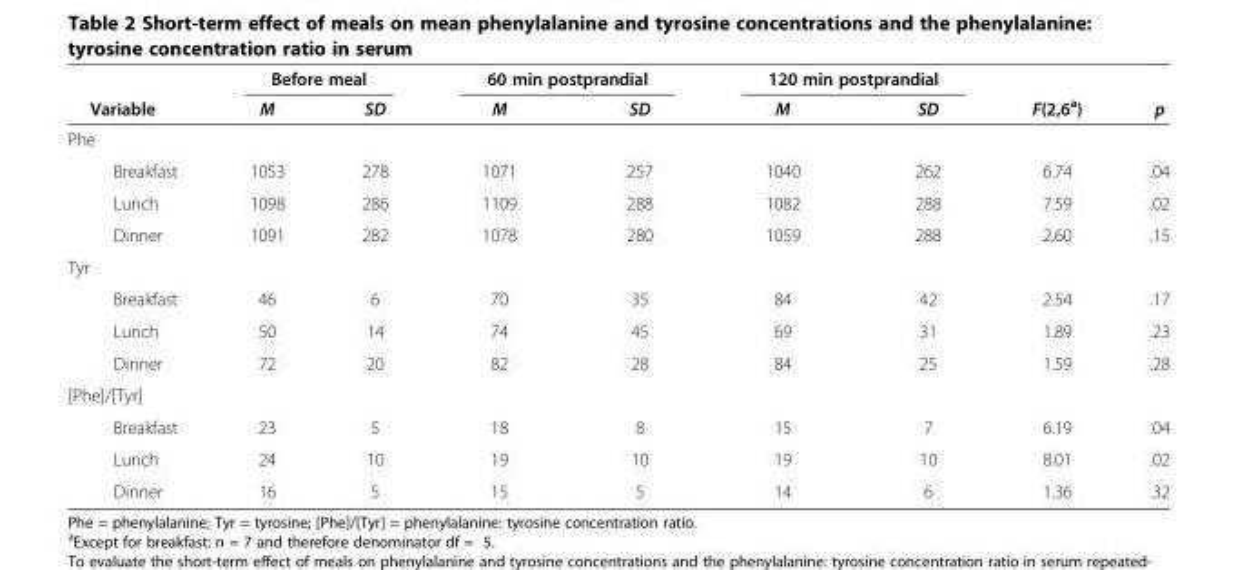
<table><thead><tr><td rowspan="2">Variable</td><td colspan="2">Before meal</td><td colspan="2">60 min postprandial</td><td colspan="2">120 min postprandial</td><td rowspan="2">F(2,6<sup>a</sup>)</td><td rowspan="2">p</td></tr><tr><td>M</td><td>SD</td><td>M</td><td>SD</td><td>M</td><td>SD</td></tr></thead><tbody><tr><td colspan="9">Phe</td></tr><tr><td>Breakfast</td><td>1053</td><td>278</td><td>1071</td><td>257</td><td>1040</td><td>262</td><td>6.74</td><td>.04</td></tr><tr><td>Lunch</td><td>1098</td><td>286</td><td>1109</td><td>288</td><td>1082</td><td>288</td><td>7.59</td><td>.02</td></tr><tr><td>Dinner</td><td>1091</td><td>282</td><td>1078</td><td>280</td><td>1059</td><td>288</td><td>2.60</td><td>.15</td></tr><tr><td colspan="9">Tyr</td></tr><tr><td>Breakfast</td><td>46</td><td>6</td><td>70</td><td>35</td><td>84</td><td>42</td><td>2.54</td><td>.17</td></tr><tr><td>Lunch</td><td>50</td><td>14</td><td>74</td><td>45</td><td>69</td><td>31</td><td>1.89</td><td>.23</td></tr><tr><td>Dinner</td><td>72</td><td>20</td><td>82</td><td>28</td><td>84</td><td>25</td><td>1.59</td><td>.28</td></tr><tr><td colspan="9">[Phe]/[Tyr]</td></tr><tr><td>Breakfast</td><td>23</td><td>5</td><td>18</td><td>8</td><td>15</td><td>7</td><td>6.19</td><td>.04</td></tr><tr><td>Lunch</td><td>24</td><td>10</td><td>19</td><td>10</td><td>19</td><td>10</td><td>8.01</td><td>.02</td></tr><tr><td>Dinner</td><td>16</td><td>5</td><td>15</td><td>5</td><td>14</td><td>6</td><td>1.36</td><td>.32</td></tr></tbody></table>